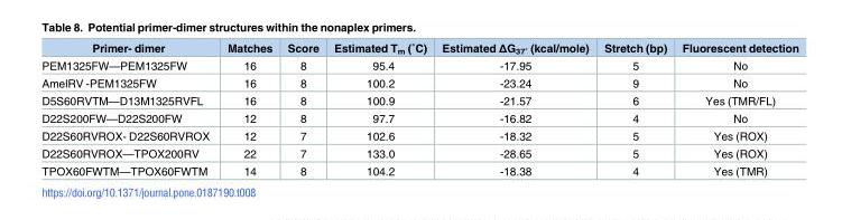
<table><thead><tr><td>Primer- dimer</td><td>Matches</td><td>Score</td><td>Estimated Tm (˚C)</td><td>Estimated ΔG37˚ (kcal/mole)</td><td>Stretch (bp)</td><td>Fluorescent detection</td></tr></thead><tbody><tr><td>PEM1325FW—PEM1325FW</td><td>16</td><td>8</td><td>95.4</td><td>-17.95</td><td>5</td><td>No</td></tr><tr><td>AmelRV -PEM1325FW</td><td>16</td><td>8</td><td>100.2</td><td>-23.24</td><td>9</td><td>No</td></tr><tr><td>D5S60RVTM—D13M1325RVFL</td><td>16</td><td>8</td><td>100.9</td><td>-21.57</td><td>6</td><td>Yes (TMR/FL)</td></tr><tr><td>D22S200FW—D22S200FW</td><td>12</td><td>8</td><td>97.7</td><td>-16.82</td><td>4</td><td>No</td></tr><tr><td>D22S60RVROX- D22S60RVROX</td><td>12</td><td>7</td><td>102.6</td><td>-18.32</td><td>5</td><td>Yes (ROX)</td></tr><tr><td>D22S60RVROX—TPOX200RV</td><td>22</td><td>7</td><td>133.0</td><td>-28.65</td><td>5</td><td>Yes (ROX)</td></tr><tr><td>TPOX60FWTM—TPOX60FWTM</td><td>14</td><td>8</td><td>104.2</td><td>-18.38</td><td>4</td><td>Yes (TMR)</td></tr></tbody></table>